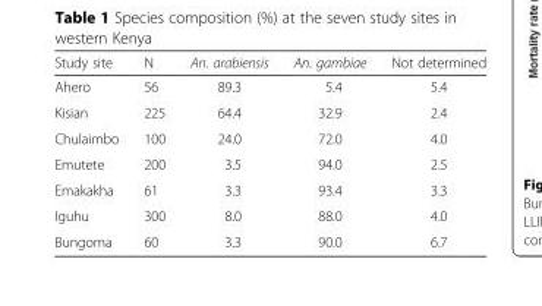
<table><thead><tr><td>Study site</td><td>N</td><td>An. arabiensis</td><td>An. gambiae</td><td>Not determined</td></tr></thead><tbody><tr><td>Ahero</td><td>56</td><td>89.3</td><td>5.4</td><td>5.4</td></tr><tr><td>Kisian</td><td>225</td><td>64.4</td><td>32.9</td><td>2.4</td></tr><tr><td>Chulaimbo</td><td>100</td><td>24.0</td><td>72.0</td><td>4.0</td></tr><tr><td>Emutete</td><td>200</td><td>3.5</td><td>94.0</td><td>2.5</td></tr><tr><td>Emakakha</td><td>61</td><td>3.3</td><td>93.4</td><td>3.3</td></tr><tr><td>Iguhu</td><td>300</td><td>8.0</td><td>88.0</td><td>4.0</td></tr><tr><td>Bungoma</td><td>60</td><td>3.3</td><td>90.0</td><td>6.7</td></tr></tbody></table>